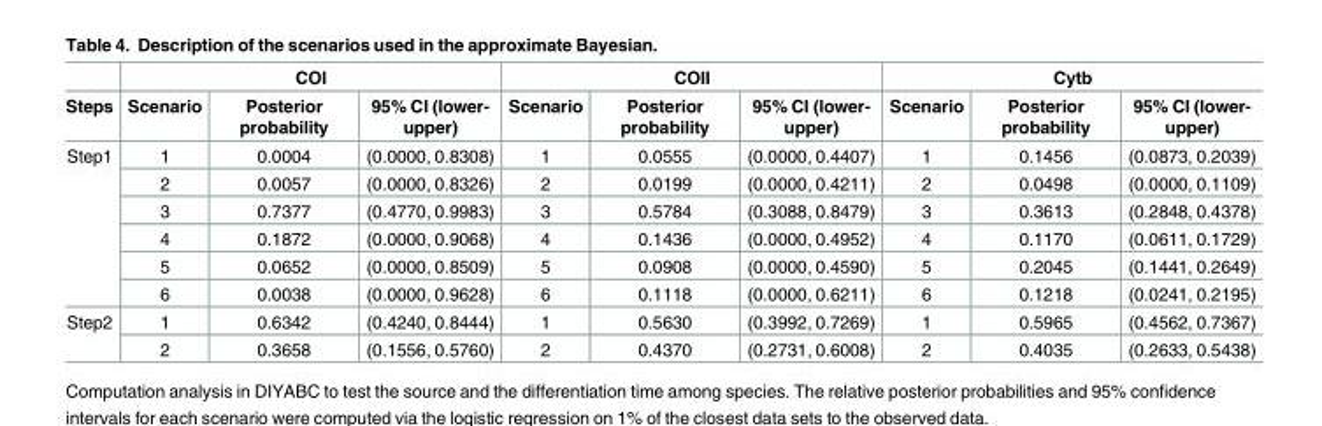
<table><thead><tr><td rowspan="2">Steps</td><td colspan="3">COI</td><td colspan="3">COII</td><td colspan="3">Cytb</td></tr><tr><td>Scenario</td><td>Posterior probability</td><td>95% CI (lower- upper)</td><td>Scenario</td><td>Posterior probability</td><td>95% CI (lower- upper)</td><td>Scenario</td><td>Posterior probability</td><td>95% CI (lower- upper)</td></tr></thead><tbody><tr><td rowspan="6">Step1</td><td>1</td><td>0.0004</td><td>(0.0000, 0.8308)</td><td>1</td><td>0.0555</td><td>(0.0000, 0.4407)</td><td>1</td><td>0.1456</td><td>(0.0873, 0.2039)</td></tr><tr><td>2</td><td>0.0057</td><td>(0.0000, 0.8326)</td><td>2</td><td>0.0199</td><td>(0.0000, 0.4211)</td><td>2</td><td>0.0498</td><td>(0.0000, 0.1109)</td></tr><tr><td>3</td><td>0.7377</td><td>(0.4770, 0.9983)</td><td>3</td><td>0.5784</td><td>(0.3088, 0.8479)</td><td>3</td><td>0.3613</td><td>(0.2848, 0.4378)</td></tr><tr><td>4</td><td>0.1872</td><td>(0.0000, 0.9068)</td><td>4</td><td>0.1436</td><td>(0.0000, 0.4952)</td><td>4</td><td>0.1170</td><td>(0.0611, 0.1729)</td></tr><tr><td>5</td><td>0.0652</td><td>(0.0000, 0.8509)</td><td>5</td><td>0.0908</td><td>(0.0000, 0.4590)</td><td>5</td><td>0.2045</td><td>(0.1441, 0.2649)</td></tr><tr><td>6</td><td>0.0038</td><td>(0.0000, 0.9628)</td><td>6</td><td>0.1118</td><td>(0.0000, 0.6211)</td><td>6</td><td>0.1218</td><td>(0.0241, 0.2195)</td></tr><tr><td rowspan="2">Step2</td><td>1</td><td>0.6342</td><td>(0.4240, 0.8444)</td><td>1</td><td>0.5630</td><td>(0.3992, 0.7269)</td><td>1</td><td>0.5965</td><td>(0.4562, 0.7367)</td></tr><tr><td>2</td><td>0.3658</td><td>(0.1556, 0.5760)</td><td>2</td><td>0.4370</td><td>(0.2731, 0.6008)</td><td>2</td><td>0.4035</td><td>(0.2633, 0.5438)</td></tr></tbody></table>